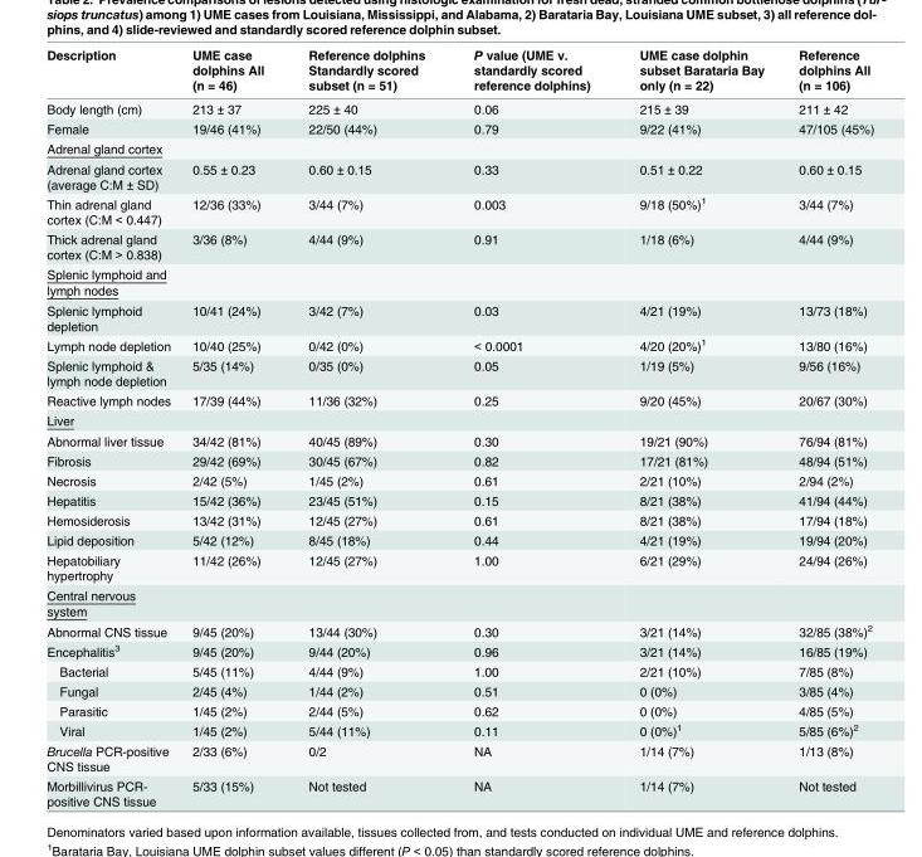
<table><thead><tr><td>Description</td><td>UME case dolphins All (n = 46)</td><td>Reference dolphins Standardly scored subset (n = 51)</td><td>P value (UME v. standardly scored reference dolphins)</td><td>UME case dolphin subset Barataria Bay only (n = 22)</td><td>Reference dolphins All (n = 106)</td></tr></thead><tbody><tr><td>Body length (cm)</td><td>213 ± 37</td><td>225 ± 40</td><td>0.06</td><td>215 ± 39</td><td>211 ± 42</td></tr><tr><td>Female</td><td>19/46 (41%)</td><td>22/50 (44%)</td><td>0.79</td><td>9/22 (41%)</td><td>47/105 (45%)</td></tr><tr><td colspan="6">Adrenal gland cortex</td></tr><tr><td>Adrenal gland cortex (average C:M ± SD)</td><td>0.55 ± 0.23</td><td>0.60 ± 0.15</td><td>0.33</td><td>0.51 ± 0.22</td><td>0.60 ± 0.15</td></tr><tr><td>Thin adrenal gland cortex (C:M &lt; 0.447)</td><td>12/36 (33%)</td><td>3/44 (7%)</td><td>0.003</td><td>9/18 (50%)<sup>1</sup></td><td>3/44 (7%)</td></tr><tr><td>Thick adrenal gland cortex (C:M &gt; 0.838)</td><td>3/36 (8%)</td><td>4/44 (9%)</td><td>0.91</td><td>1/18 (6%)</td><td>4/44 (9%)</td></tr><tr><td colspan="6">Splenic lymphoid and lymph nodes</td></tr><tr><td>Splenic lymphoid depletion</td><td>10/41 (24%)</td><td>3/42 (7%)</td><td>0.03</td><td>4/21 (19%)</td><td>13/73 (18%)</td></tr><tr><td>Lymph node depletion</td><td>10/40 (25%)</td><td>0/42 (0%)</td><td>&lt; 0.0001</td><td>4/20 (20%)<sup>1</sup></td><td>13/80 (16%)</td></tr><tr><td>Splenic lymphoid &amp; lymph node depletion</td><td>5/35 (14%)</td><td>0/35 (0%)</td><td>0.05</td><td>1/19 (5%)</td><td>9/56 (16%)</td></tr><tr><td>Reactive lymph nodes</td><td>17/39 (44%)</td><td>11/36 (32%)</td><td>0.25</td><td>9/20 (45%)</td><td>20/67 (30%)</td></tr><tr><td colspan="6">Liver</td></tr><tr><td>Abnormal liver tissue</td><td>34/42 (81%)</td><td>40/45 (89%)</td><td>0.30</td><td>19/21 (90%)</td><td>76/94 (81%)</td></tr><tr><td>Fibrosis</td><td>29/42 (69%)</td><td>30/45 (67%)</td><td>0.82</td><td>17/21 (81%)</td><td>48/94 (51%)</td></tr><tr><td>Necrosis</td><td>2/42 (5%)</td><td>1/45 (2%)</td><td>0.61</td><td>2/21 (10%)</td><td>2/94 (2%)</td></tr><tr><td>Hepatitis</td><td>15/42 (36%)</td><td>23/45 (51%)</td><td>0.15</td><td>8/21 (38%)</td><td>41/94 (44%)</td></tr><tr><td>Hemosiderosis</td><td>13/42 (31%)</td><td>12/45 (27%)</td><td>0.61</td><td>8/21 (38%)</td><td>17/94 (18%)</td></tr><tr><td>Lipid deposition</td><td>5/42 (12%)</td><td>8/45 (18%)</td><td>0.44</td><td>4/21 (19%)</td><td>19/94 (20%)</td></tr><tr><td>Hepatobiliary hypertrophy</td><td>11/42 (26%)</td><td>12/45 (27%)</td><td>1.00</td><td>6/21 (29%)</td><td>24/94 (26%)</td></tr><tr><td colspan="6">Central nervous system</td></tr><tr><td>Abnormal CNS tissue</td><td>9/45 (20%)</td><td>13/44 (30%)</td><td>0.30</td><td>3/21 (14%)</td><td>32/85 (38%)<sup>2</sup></td></tr><tr><td>Encephalitis<sup>3</sup></td><td>9/45 (20%)</td><td>9/44 (20%)</td><td>0.96</td><td>3/21 (14%)</td><td>16/85 (19%)</td></tr><tr><td>Bacterial</td><td>5/45 (11%)</td><td>4/44 (9%)</td><td>1.00</td><td>2/21 (10%)</td><td>7/85 (8%)</td></tr><tr><td>Fungal</td><td>2/45 (4%)</td><td>1/44 (2%)</td><td>0.51</td><td>0 (0%)</td><td>3/85 (4%)</td></tr><tr><td>Parasitic</td><td>1/45 (2%)</td><td>2/44 (5%)</td><td>0.62</td><td>0 (0%)</td><td>4/85 (5%)</td></tr><tr><td>Viral</td><td>1/45 (2%)</td><td>5/44 (11%)</td><td>0.11</td><td>0 (0%)<sup>1</sup></td><td>5/85 (6%)<sup>2</sup></td></tr><tr><td>Brucella PCR-positive CNS tissue</td><td>2/33 (6%)</td><td>0/2</td><td>NA</td><td>1/14 (7%)</td><td>1/13 (8%)</td></tr><tr><td>Morbillivirus PCR- positive CNS tissue</td><td>5/33 (15%)</td><td>Not tested</td><td>NA</td><td>1/14 (7%)</td><td>Not tested</td></tr></tbody></table>